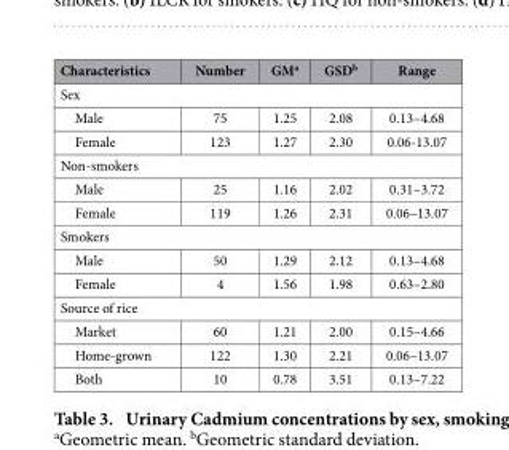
<table><thead><tr><td>Characteristics</td><td>Number</td><td>GM<sup>a</sup></td><td>GSD<sup>b</sup></td><td>Range</td></tr></thead><tbody><tr><td colspan="5">Sex</td></tr><tr><td>Male</td><td>75</td><td>1.25</td><td>2.08</td><td>0.13–4.68</td></tr><tr><td>Female</td><td>123</td><td>1.27</td><td>2.30</td><td>0.06-13.07</td></tr><tr><td colspan="5">Non-smokers</td></tr><tr><td>Male</td><td>25</td><td>1.16</td><td>2.02</td><td>0.31–3.72</td></tr><tr><td>Female</td><td>119</td><td>1.26</td><td>2.31</td><td>0.06–13.07</td></tr><tr><td colspan="5">Smokers</td></tr><tr><td>Male</td><td>50</td><td>1.29</td><td>2.12</td><td>0.13–4.68</td></tr><tr><td>Female</td><td>4</td><td>1.56</td><td>1.98</td><td>0.63–2.80</td></tr><tr><td colspan="5">Source of rice</td></tr><tr><td>Market</td><td>60</td><td>1.21</td><td>2.00</td><td>0.15–4.66</td></tr><tr><td>Home-grown</td><td>122</td><td>1.30</td><td>2.21</td><td>0.06–13.07</td></tr><tr><td>Both</td><td>10</td><td>0.78</td><td>3.51</td><td>0.13–7.22</td></tr></tbody></table>